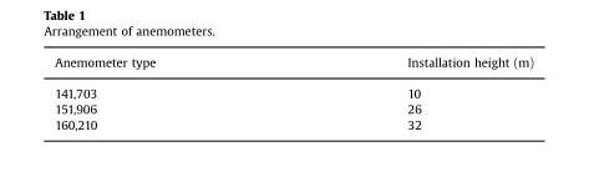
<table><thead><tr><td>Anemometer type</td><td>Installation height (m)</td></tr></thead><tbody><tr><td>141,703</td><td>10</td></tr><tr><td>151,906</td><td>26</td></tr><tr><td>160,210</td><td>32</td></tr></tbody></table>